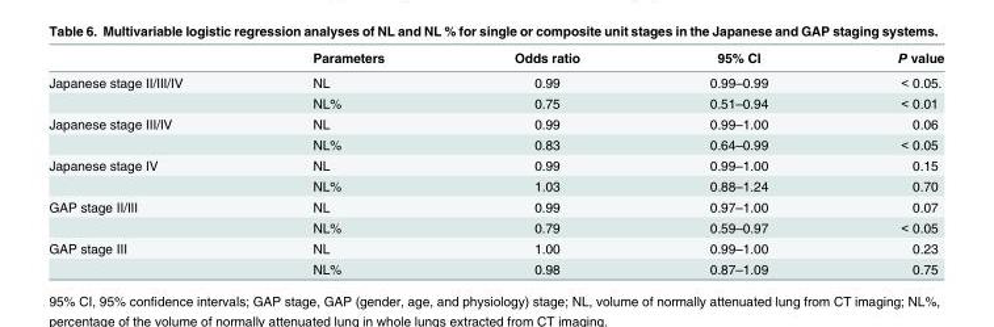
<table><thead><tr><td></td><td>Parameters</td><td>Odds ratio</td><td>95% CI</td><td>P value</td></tr></thead><tbody><tr><td rowspan="2">Japanese stage II/III/IV</td><td>NL</td><td>0.99</td><td>0.99–0.99</td><td>&lt; 0.05.</td></tr><tr><td>NL%</td><td>0.75</td><td>0.51–0.94</td><td>&lt; 0.01</td></tr><tr><td rowspan="2">Japanese stage III/IV</td><td>NL</td><td>0.99</td><td>0.99–1.00</td><td>0.06</td></tr><tr><td>NL%</td><td>0.83</td><td>0.64–0.99</td><td>&lt; 0.05</td></tr><tr><td rowspan="2">Japanese stage IV</td><td>NL</td><td>0.99</td><td>0.99–1.00</td><td>0.15</td></tr><tr><td>NL%</td><td>1.03</td><td>0.88–1.24</td><td>0.70</td></tr><tr><td rowspan="2">GAP stage II/III</td><td>NL</td><td>0.99</td><td>0.97–1.00</td><td>0.07</td></tr><tr><td>NL%</td><td>0.79</td><td>0.59–0.97</td><td>&lt; 0.05</td></tr><tr><td rowspan="2">GAP stage III</td><td>NL</td><td>1.00</td><td>0.99–1.00</td><td>0.23</td></tr><tr><td>NL%</td><td>0.98</td><td>0.87–1.09</td><td>0.75</td></tr></tbody></table>